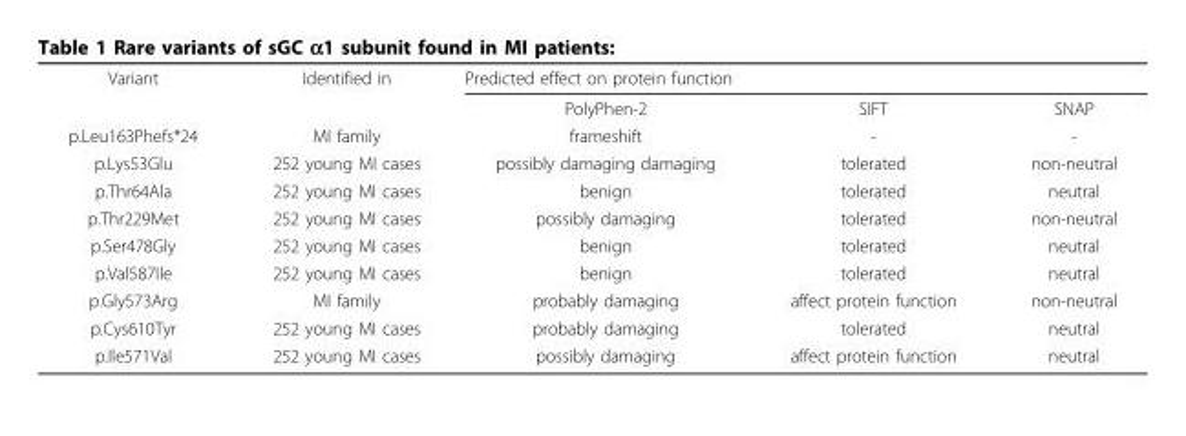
<table><tbody><tr><td rowspan="2">Variant</td><td>Identified in</td><td colspan="3">Predicted effect on protein function</td></tr><tr><td></td><td>PolyPhen-2</td><td>SIFT</td><td>SNAP</td></tr><tr><td>p.Leu163Phefs*24</td><td>MI family</td><td>frameshift</td><td>-</td><td>-</td></tr><tr><td>p.Lys53Glu</td><td>252 young MI cases</td><td>possibly damaging damaging</td><td>tolerated</td><td>non-neutral</td></tr><tr><td>p.Thr64Ala</td><td>252 young MI cases</td><td>benign</td><td>tolerated</td><td>neutral</td></tr><tr><td>p.Thr229Met</td><td>252 young MI cases</td><td>possibly damaging</td><td>tolerated</td><td>non-neutral</td></tr><tr><td>p.Ser478Gly</td><td>252 young MI cases</td><td>benign</td><td>tolerated</td><td>neutral</td></tr><tr><td>p.Val587Ile</td><td>252 young MI cases</td><td>benign</td><td>tolerated</td><td>neutral</td></tr><tr><td>p.Gly573Arg</td><td>MI family</td><td>probably damaging</td><td>affect protein function</td><td>non-neutral</td></tr><tr><td>p.Cys610Tyr</td><td>252 young MI cases</td><td>probably damaging</td><td>tolerated</td><td>neutral</td></tr><tr><td>p.Ile571Val</td><td>252 young MI cases</td><td>possibly damaging</td><td>affect protein function</td><td>neutral</td></tr></tbody></table>